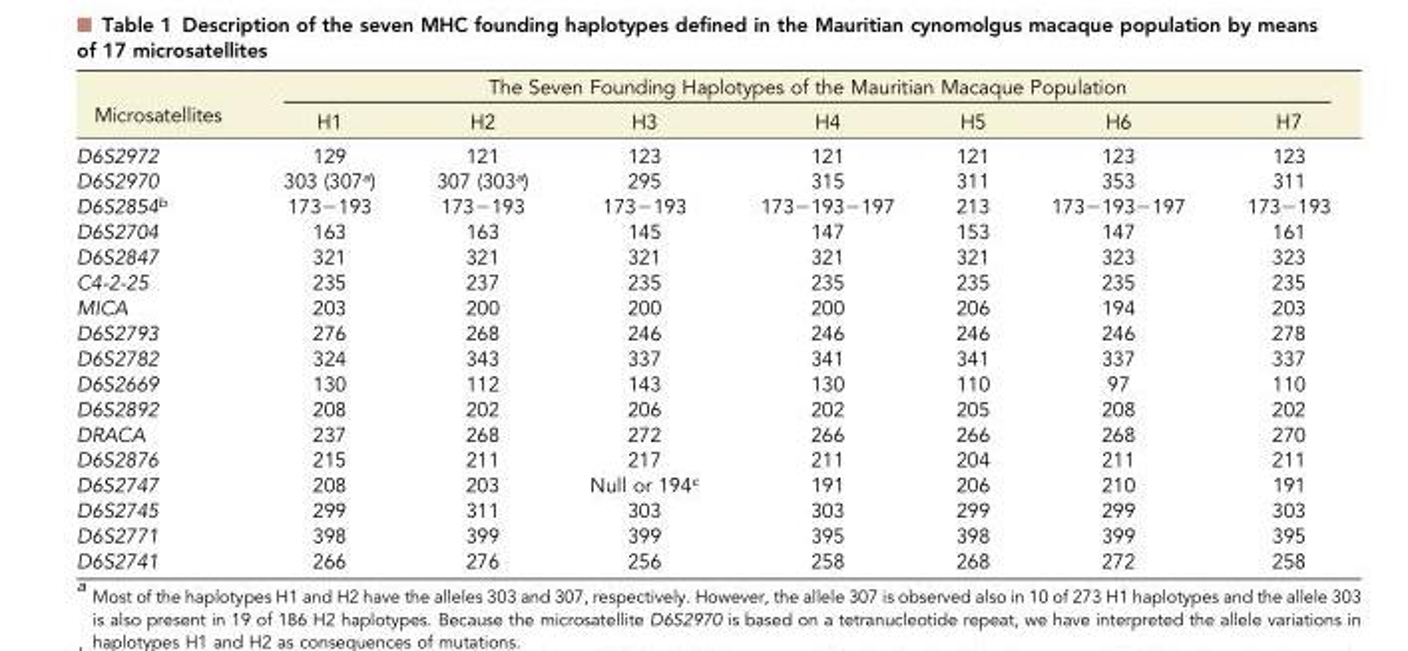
<table><thead><tr><td rowspan="2">Microsatellites</td><td colspan="7">The Seven Founding Haplotypes of the Mauritian Macaque Population</td></tr><tr><td>H1</td><td>H2</td><td>H3</td><td>H4</td><td>H5</td><td>H6</td><td>H7</td></tr></thead><tbody><tr><td>D6S2972</td><td>129</td><td>121</td><td>123</td><td>121</td><td>121</td><td>123</td><td>123</td></tr><tr><td>D6S2970</td><td>303 (307<sup>a</sup>)</td><td>307 (303<sup>a</sup>)</td><td>295</td><td>315</td><td>311</td><td>353</td><td>311</td></tr><tr><td>D6S2854<sup>b</sup></td><td>173−193</td><td>173−193</td><td>173−193</td><td>173−193−197</td><td>213</td><td>173−193−197</td><td>173−193</td></tr><tr><td>D6S2704</td><td>163</td><td>163</td><td>145</td><td>147</td><td>153</td><td>147</td><td>161</td></tr><tr><td>D6S2847</td><td>321</td><td>321</td><td>321</td><td>321</td><td>321</td><td>323</td><td>323</td></tr><tr><td>C4-2-25</td><td>235</td><td>237</td><td>235</td><td>235</td><td>235</td><td>235</td><td>235</td></tr><tr><td>MICA</td><td>203</td><td>200</td><td>200</td><td>200</td><td>206</td><td>194</td><td>203</td></tr><tr><td>D6S2793</td><td>276</td><td>268</td><td>246</td><td>246</td><td>246</td><td>246</td><td>278</td></tr><tr><td>D6S2782</td><td>324</td><td>343</td><td>337</td><td>341</td><td>341</td><td>337</td><td>337</td></tr><tr><td>D6S2669</td><td>130</td><td>112</td><td>143</td><td>130</td><td>110</td><td>97</td><td>110</td></tr><tr><td>D6S2892</td><td>208</td><td>202</td><td>206</td><td>202</td><td>205</td><td>208</td><td>202</td></tr><tr><td>DRACA</td><td>237</td><td>268</td><td>272</td><td>266</td><td>266</td><td>268</td><td>270</td></tr><tr><td>D6S2876</td><td>215</td><td>211</td><td>217</td><td>211</td><td>204</td><td>211</td><td>211</td></tr><tr><td>D6S2747</td><td>208</td><td>203</td><td>Null or 194<sup>c</sup></td><td>191</td><td>206</td><td>210</td><td>191</td></tr><tr><td>D6S2745</td><td>299</td><td>311</td><td>303</td><td>303</td><td>299</td><td>299</td><td>303</td></tr><tr><td>D6S2771</td><td>398</td><td>399</td><td>399</td><td>395</td><td>398</td><td>399</td><td>395</td></tr><tr><td>D6S2741</td><td>266</td><td>276</td><td>256</td><td>258</td><td>268</td><td>272</td><td>258</td></tr></tbody></table>